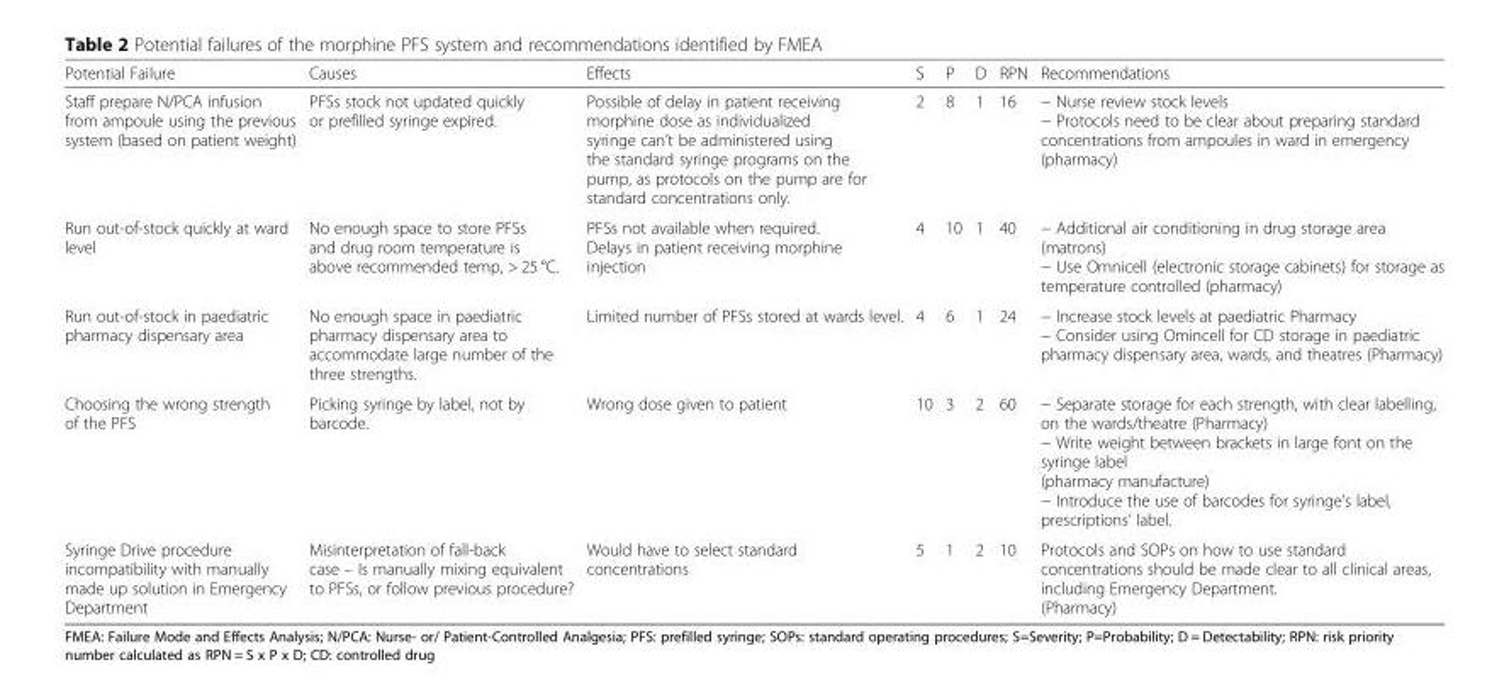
<table><thead><tr><td>Potential Failure</td><td>Causes</td><td>Effects</td><td>S</td><td>P</td><td>D</td><td>RPN</td><td>Recommendations</td></tr></thead><tbody><tr><td>Staff prepare N/PCA infusion from ampoule using the previous system (based on patient weight)</td><td>PFSs stock not updated quickly or prefilled syringe expired.</td><td>Possible of delay in patient receiving morphine dose as individualized syringe can’t be administered using the standard syringe programs on the pump, as protocols on the pump are for standard concentrations only.</td><td>2</td><td>8</td><td>1</td><td>16</td><td>− Nurse review stock levels − Protocols need to be clear about preparing standard concentrations from ampoules in ward in emergency (pharmacy)</td></tr><tr><td>Run out-of-stock quickly at ward level</td><td>No enough space to store PFSs and drug room temperature is above recommended temp, &gt; 25 °C.</td><td>PFSs not available when required. Delays in patient receiving morphine injection</td><td>4</td><td>10</td><td>1</td><td>40</td><td>− Additional air conditioning in drug storage area (matrons) − Use Omnicell (electronic storage cabinets) for storage as temperature controlled (pharmacy)</td></tr><tr><td>Run out-of-stock in paediatric pharmacy dispensary area</td><td>No enough space in paediatric pharmacy dispensary area to accommodate large number of the three strengths.</td><td>Limited number of PFSs stored at wards level.</td><td>4</td><td>6</td><td>1</td><td>24</td><td>− Increase stock levels at paediatric Pharmacy − Consider using Omincell for CD storage in paediatric pharmacy dispensary area, wards, and theatres (Pharmacy)</td></tr><tr><td>Choosing the wrong strength of the PFS</td><td>Picking syringe by label, not by barcode.</td><td>Wrong dose given to patient</td><td>10</td><td>3</td><td>2</td><td>60</td><td>− Separate storage for each strength, with clear labelling, on the wards/theatre (Pharmacy) − Write weight between brackets in large font on the syringe label (pharmacy manufacture) − Introduce the use of barcodes for syringe’s label, prescriptions’ label.</td></tr><tr><td>Syringe Drive procedure incompatibility with manually made up solution in Emergency Department</td><td>Misinterpretation of fall-back case – Is manually mixing equivalent to PFSs, or follow previous procedure?</td><td>Would have to select standard concentrations</td><td>5</td><td>1</td><td>2</td><td>10</td><td>Protocols and SOPs on how to use standard concentrations should be made clear to all clinical areas, including Emergency Department. (Pharmacy)</td></tr></tbody></table>